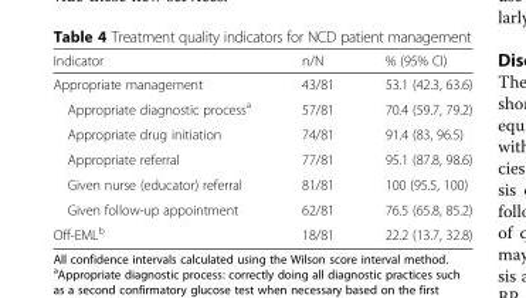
<table><thead><tr><td>Indicator</td><td>n/N</td><td>% (95% CI)</td></tr></thead><tbody><tr><td>Appropriate management</td><td>43/81</td><td>53.1 (42.3, 63.6)</td></tr><tr><td>Appropriate diagnostic process<sup>a</sup></td><td>57/81</td><td>70.4 (59.7, 79.2)</td></tr><tr><td>Appropriate drug initiation</td><td>74/81</td><td>91.4 (83, 96.5)</td></tr><tr><td>Appropriate referral</td><td>77/81</td><td>95.1 (87.8, 98.6)</td></tr><tr><td>Given nurse (educator) referral</td><td>81/81</td><td>100 (95.5, 100)</td></tr><tr><td>Given follow-up appointment</td><td>62/81</td><td>76.5 (65.8, 85.2)</td></tr><tr><td>Off-EML<sup>b</sup></td><td>18/81</td><td>22.2 (13.7, 32.8)</td></tr></tbody></table>